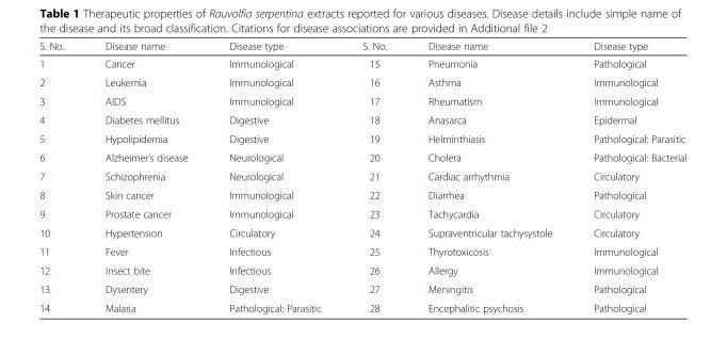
<table><thead><tr><td>S. No.</td><td>Disease name</td><td>Disease type</td><td>S. No.</td><td>Disease name</td><td>Disease type</td></tr></thead><tbody><tr><td>1</td><td>Cancer</td><td>Immunological</td><td>15</td><td>Pneumonia</td><td>Pathological</td></tr><tr><td>2</td><td>Leukemia</td><td>Immunological</td><td>16</td><td>Asthma</td><td>Immunological</td></tr><tr><td>3</td><td>AIDS</td><td>Immunological</td><td>17</td><td>Rheumatism</td><td>Immunological</td></tr><tr><td>4</td><td>Diabetes mellitus</td><td>Digestive</td><td>18</td><td>Anasarca</td><td>Epidermal</td></tr><tr><td>5</td><td>Hypolipidemia</td><td>Digestive</td><td>19</td><td>Helminthiasis</td><td>Pathological: Parasitic</td></tr><tr><td>6</td><td>Alzheimer’s disease</td><td>Neurological</td><td>20</td><td>Cholera</td><td>Pathological: Bacterial</td></tr><tr><td>7</td><td>Schizophrenia</td><td>Neurological</td><td>21</td><td>Cardiac arrhythmia</td><td>Circulatory</td></tr><tr><td>8</td><td>Skin cancer</td><td>Immunological</td><td>22</td><td>Diarrhea</td><td>Pathological</td></tr><tr><td>9</td><td>Prostate cancer</td><td>Immunological</td><td>23</td><td>Tachycardia</td><td>Circulatory</td></tr><tr><td>10</td><td>Hypertension</td><td>Circulatory</td><td>24</td><td>Supraventricular tachysystole</td><td>Circulatory</td></tr><tr><td>11</td><td>Fever</td><td>Infectious</td><td>25</td><td>Thyrotoxicosis</td><td>Immunological</td></tr><tr><td>12</td><td>Insect bite</td><td>Infectious</td><td>26</td><td>Allergy</td><td>Immunological</td></tr><tr><td>13</td><td>Dysentery</td><td>Digestive</td><td>27</td><td>Meningitis</td><td>Pathological</td></tr><tr><td>14</td><td>Malaria</td><td>Pathological: Parasitic</td><td>28</td><td>Encephalitic psychosis</td><td>Pathological</td></tr></tbody></table>